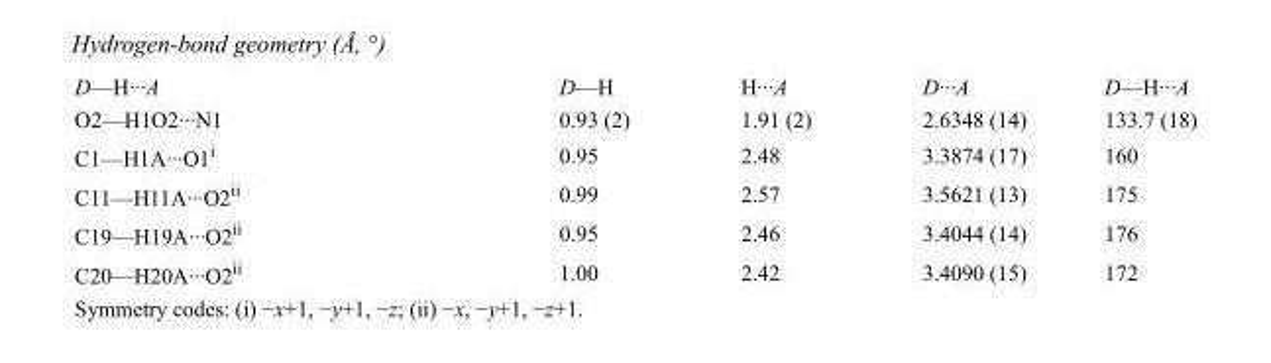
<table><tbody><tr><td>D—H···A</td><td>D—H</td><td>H···A</td><td>D···A</td><td>D—H···A</td></tr><tr><td>O2—H1O2···N1</td><td>0.93 (2)</td><td>1.91 (2)</td><td>2.6348 (14)</td><td>133.7 (18)</td></tr><tr><td>C1—H1A···O1<sup>i</sup></td><td>0.95</td><td>2.48</td><td>3.3874 (17)</td><td>160</td></tr><tr><td>C11—H11A···O2<sup>ii</sup></td><td>0.99</td><td>2.57</td><td>3.5621 (13)</td><td>175</td></tr><tr><td>C19—H19A···O2<sup>ii</sup></td><td>0.95</td><td>2.46</td><td>3.4044 (14)</td><td>176</td></tr><tr><td>C20—H20A···O2<sup>ii</sup></td><td>1.00</td><td>2.42</td><td>3.4090 (15)</td><td>172</td></tr></tbody></table>